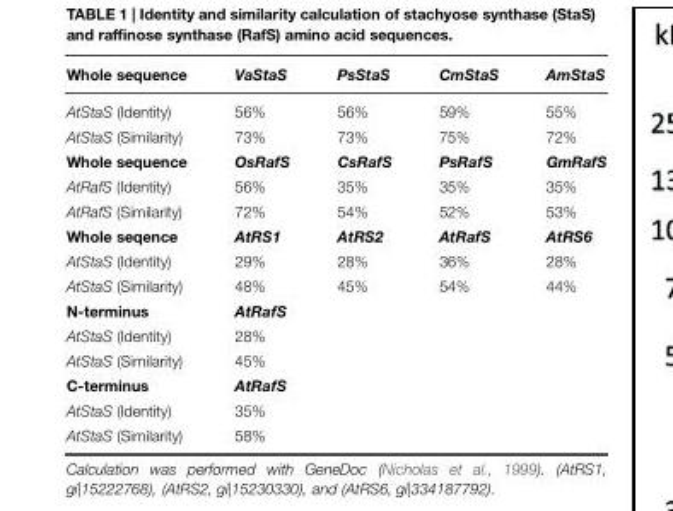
<table><thead><tr><td>Whole sequence</td><td>VaStaS</td><td>PsStaS</td><td>CmStaS</td><td>AmStaS</td></tr></thead><tbody><tr><td>AtStaS (Identity)</td><td>56%</td><td>56%</td><td>59%</td><td>55%</td></tr><tr><td>AtStaS (Similarity)</td><td>73%</td><td>73%</td><td>75%</td><td>72%</td></tr><tr><td>Whole sequence</td><td>OsRafS</td><td>CsRafS</td><td>PsRafS</td><td>GmRafS</td></tr><tr><td>AtRafS (Identity)</td><td>56%</td><td>35%</td><td>35%</td><td>35%</td></tr><tr><td>AtRafS (Similarity)</td><td>72%</td><td>54%</td><td>52%</td><td>53%</td></tr><tr><td>Whole seqence</td><td>AtRS1</td><td>AtRS2</td><td>AtRafS</td><td>AtRS6</td></tr><tr><td>AtStaS (Identity)</td><td>29%</td><td>28%</td><td>36%</td><td>28%</td></tr><tr><td>AtStaS (Similarity)</td><td>48%</td><td>45%</td><td>54%</td><td>44%</td></tr><tr><td>N-terminus</td><td>AtRafS</td><td></td><td></td><td></td></tr><tr><td>AtStaS (Identity)</td><td>28%</td><td></td><td></td><td></td></tr><tr><td>AtStaS (Similarity)</td><td>45%</td><td></td><td></td><td></td></tr><tr><td>C-terminus</td><td>AtRafS</td><td></td><td></td><td></td></tr><tr><td>AtStaS (Identity)</td><td>35%</td><td></td><td></td><td></td></tr><tr><td>AtStaS (Similarity)</td><td>58%</td><td></td><td></td><td></td></tr></tbody></table>